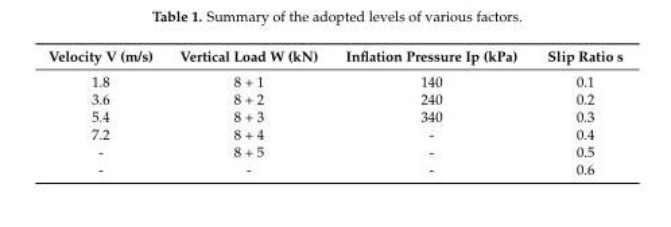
<table><thead><tr><td>Velocity V (m/s)</td><td>Vertical Load W (kN)</td><td>Inflation Pressure Ip (kPa)</td><td>Slip Ratio s</td></tr></thead><tbody><tr><td>1.8</td><td>8 + 1</td><td>140</td><td>0.1</td></tr><tr><td>3.6</td><td>8 + 2</td><td>240</td><td>0.2</td></tr><tr><td>5.4</td><td>8 + 3</td><td>340</td><td>0.3</td></tr><tr><td>7.2</td><td>8 + 4</td><td>-</td><td>0.4</td></tr><tr><td>-</td><td>8 + 5</td><td>-</td><td>0.5</td></tr><tr><td>-</td><td>-</td><td>-</td><td>0.6</td></tr></tbody></table>